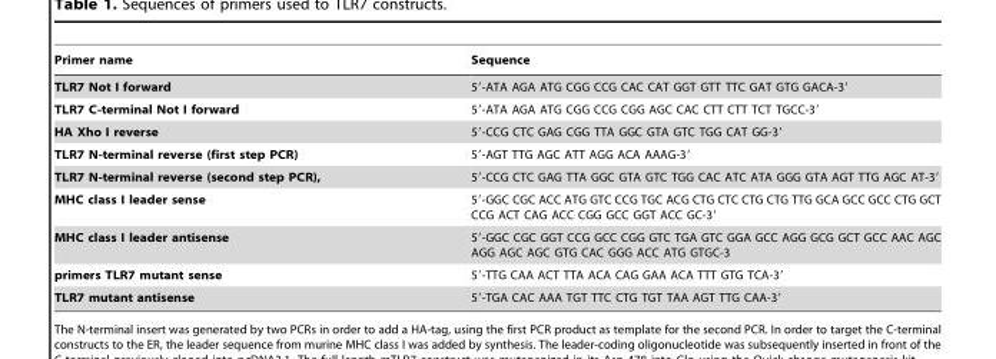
<table><thead><tr><td>Primer name</td><td>Sequence</td></tr></thead><tbody><tr><td>TLR7 Not I forward</td><td>5′-ATA AGA ATG CGG CCG CAC CAT GGT GTT TTC GAT GTG GACA-3′</td></tr><tr><td>TLR7 C-terminal Not I forward</td><td>5′-ATA AGA ATG CGG CCG CGG AGC CAC CTT CTT TCT TGCC-3′</td></tr><tr><td>HA Xho I reverse</td><td>5′-CCG CTC GAG CGG TTA GGC GTA GTC TGG CAT GG-3′</td></tr><tr><td>TLR7 N-terminal reverse (first step PCR)</td><td>5′-AGT TTG AGC ATT AGG ACA AAAG-3′</td></tr><tr><td>TLR7 N-terminal reverse (second step PCR),</td><td>5′-CCG CTC GAG TTA GGC GTA GTC TGG CAC ATC ATA GGG GTA AGT TTG AGC AT-3′</td></tr><tr><td>MHC class I leader sense</td><td>5′-GGC CGC ACC ATG GTC CCG TGC ACG CTG CTC CTG CTG TTG GCA GCC GCC CTG GCT CCG ACT CAG ACC CGG GCC GGT ACC GC-3′</td></tr><tr><td>MHC class I leader antisense</td><td>5′-GGC CGC GGT CCG GCC CGG GTC TGA GTC GGA GCC AGG GCG GCT GCC AAC AGC AGG AGC AGC GTG CAC GGG ACC ATG GTGC-3</td></tr><tr><td>primers TLR7 mutant sense</td><td>5′-TTG CAA ACT TTA ACA CAG GAA ACA TTT GTG TCA-3′</td></tr><tr><td>TLR7 mutant antisense</td><td>5′-TGA CAC AAA TGT TTC CTG TGT TAA AGT TTG CAA-3′</td></tr></tbody></table>